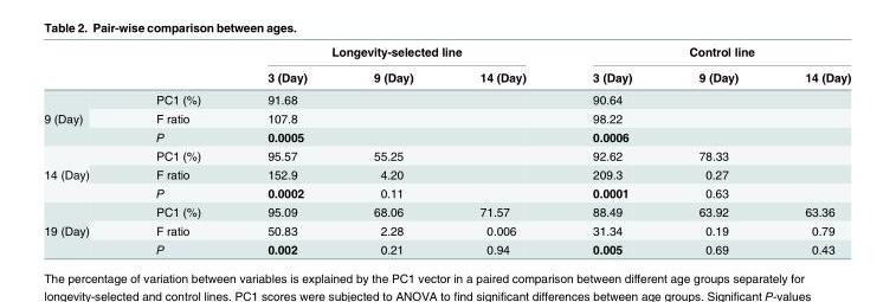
<table><thead><tr><td rowspan="2"></td><td rowspan="2"></td><td colspan="3">Longevity-selected line</td><td colspan="3">Control line</td></tr><tr><td>3 (Day)</td><td>9 (Day)</td><td>14 (Day)</td><td>3 (Day)</td><td>9 (Day)</td><td>14 (Day)</td></tr></thead><tbody><tr><td rowspan="3">9 (Day)</td><td>PC1 (%)</td><td>91.68</td><td></td><td></td><td>90.64</td><td></td><td></td></tr><tr><td>F ratio</td><td>107.8</td><td></td><td></td><td>98.22</td><td></td><td></td></tr><tr><td>P</td><td>0.0005</td><td></td><td></td><td>0.0006</td><td></td><td></td></tr><tr><td rowspan="3">14 (Day)</td><td>PC1 (%)</td><td>95.57</td><td>55.25</td><td></td><td>92.62</td><td>78.33</td><td></td></tr><tr><td>F ratio</td><td>152.9</td><td>4.20</td><td></td><td>209.3</td><td>0.27</td><td></td></tr><tr><td>P</td><td>0.0002</td><td>0.11</td><td></td><td>0.0001</td><td>0.63</td><td></td></tr><tr><td rowspan="3">19 (Day)</td><td>PC1 (%)</td><td>95.09</td><td>68.06</td><td>71.57</td><td>88.49</td><td>63.92</td><td>63.36</td></tr><tr><td>F ratio</td><td>50.83</td><td>2.28</td><td>0.006</td><td>31.34</td><td>0.19</td><td>0.79</td></tr><tr><td>P</td><td>0.002</td><td>0.21</td><td>0.94</td><td>0.005</td><td>0.69</td><td>0.43</td></tr></tbody></table>